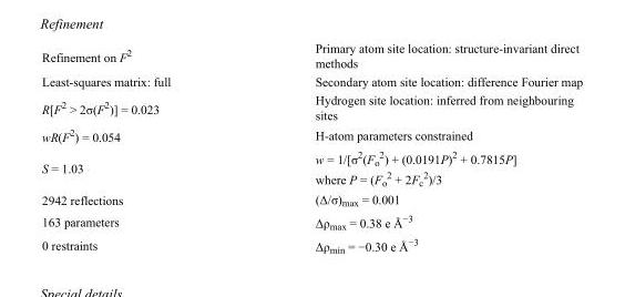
<table><tbody><tr><td>Refinement on F<sup>2</sup></td><td>Primary atom site location: structure-invariant direct methods</td></tr><tr><td>Least-squares matrix: full</td><td>Secondary atom site location: difference Fourier map</td></tr><tr><td>R[F<sup>2</sup> &gt; 2σ(F<sup>2</sup>)] = 0.023</td><td>Hydrogen site location: inferred from neighbouring sites</td></tr><tr><td>wR(F<sup>2</sup>) = 0.054</td><td>H-atom parameters constrained</td></tr><tr><td>S = 1.03</td><td>w = 1/[σ<sup>2</sup>(F<sub>o</sub> <sup>2</sup>) + (0.0191P)<sup>2</sup> + 0.7815P] where P = (F<sub>o</sub> <sup>2</sup> + 2F<sub>c</sub> <sup>2</sup>)/3</td></tr><tr><td>2942 reflections</td><td>(Δ/σ)<sub>max</sub> = 0.001</td></tr><tr><td>163 parameters</td><td>Δρ<sub>max</sub> = 0.38 e Å<sup>−3</sup></td></tr><tr><td>0 restraints</td><td>Δρ<sub>min</sub> = −0.30 e Å<sup>−3</sup></td></tr></tbody></table>